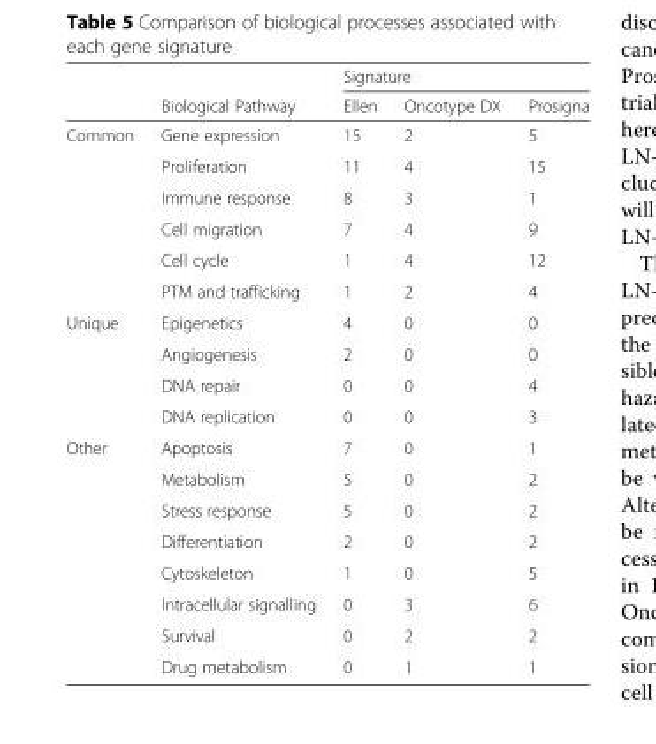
<table><thead><tr><td rowspan="2"></td><td rowspan="2">Biological Pathway</td><td colspan="3">Signature</td></tr><tr><td>Ellen</td><td>Oncotype DX</td><td>Prosigna</td></tr></thead><tbody><tr><td rowspan="6">Common</td><td>Gene expression</td><td>15</td><td>2</td><td>5</td></tr><tr><td>Proliferation</td><td>11</td><td>4</td><td>15</td></tr><tr><td>Immune response</td><td>8</td><td>3</td><td>1</td></tr><tr><td>Cell migration</td><td>7</td><td>4</td><td>9</td></tr><tr><td>Cell cycle</td><td>1</td><td>4</td><td>12</td></tr><tr><td>PTM and trafficking</td><td>1</td><td>2</td><td>4</td></tr><tr><td rowspan="4">Unique</td><td>Epigenetics</td><td>4</td><td>0</td><td>0</td></tr><tr><td>Angiogenesis</td><td>2</td><td>0</td><td>0</td></tr><tr><td>DNA repair</td><td>0</td><td>0</td><td>4</td></tr><tr><td>DNA replication</td><td>0</td><td>0</td><td>3</td></tr><tr><td rowspan="8">Other</td><td>Apoptosis</td><td>7</td><td>0</td><td>1</td></tr><tr><td>Metabolism</td><td>5</td><td>0</td><td>2</td></tr><tr><td>Stress response</td><td>5</td><td>0</td><td>2</td></tr><tr><td>Differentiation</td><td>2</td><td>0</td><td>2</td></tr><tr><td>Cytoskeleton</td><td>1</td><td>0</td><td>5</td></tr><tr><td>Intracellular signalling</td><td>0</td><td>3</td><td>6</td></tr><tr><td>Survival</td><td>0</td><td>2</td><td>2</td></tr><tr><td>Drug metabolism</td><td>0</td><td>1</td><td>1</td></tr></tbody></table>